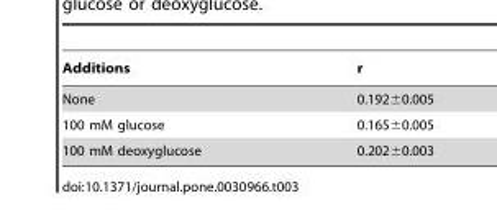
<table><thead><tr><td>Additions</td><td>r</td></tr></thead><tbody><tr><td>None</td><td>0.192±0.005</td></tr><tr><td>100 mM glucose</td><td>0.165±0.005</td></tr><tr><td>100 mM deoxyglucose</td><td>0.202±0.003</td></tr></tbody></table>